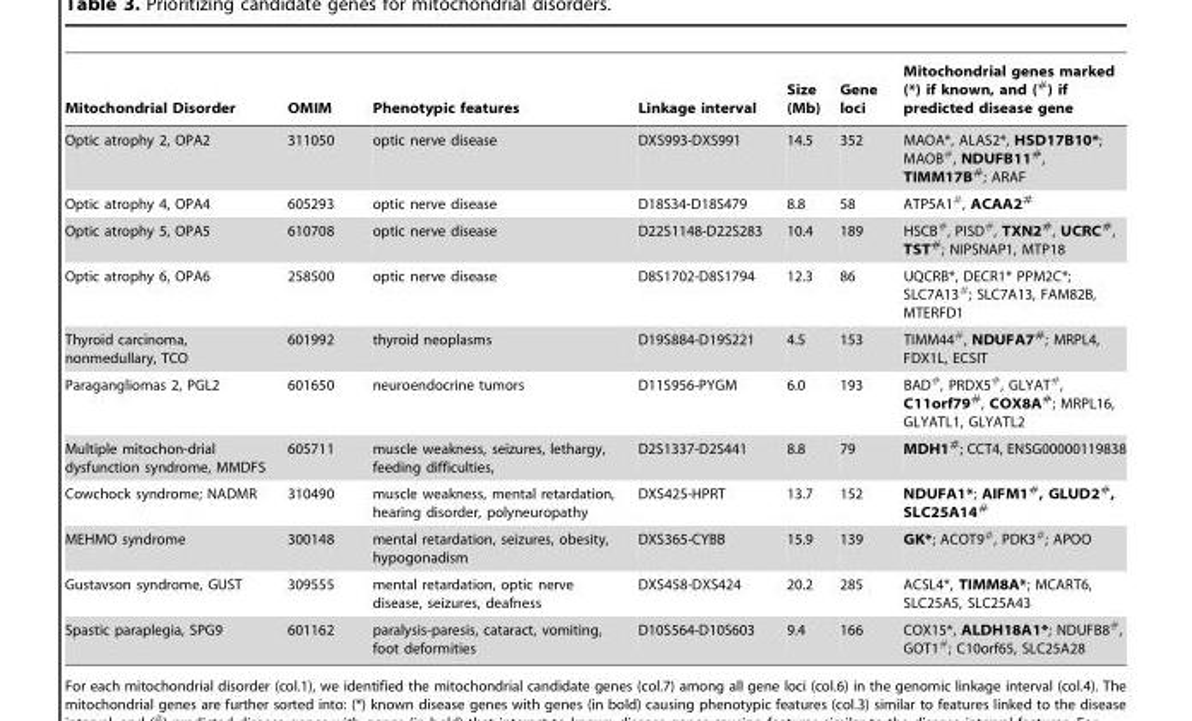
<table><thead><tr><td>Mitochondrial Disorder</td><td>OMIM</td><td>Phenotypic features</td><td>Linkage interval</td><td>Size (Mb)</td><td>Gene loci</td><td>Mitochondrial genes marked (*) if known, and (<sup>#</sup>) if predicted disease gene</td></tr></thead><tbody><tr><td>Optic atrophy 2, OPA2</td><td>311050</td><td>optic nerve disease</td><td>DXS993-DXS991</td><td>14.5</td><td>352</td><td>MAOA*, ALAS2*, HSD17B10*; MAOB<sup>#</sup>, NDUFB11<sup>#</sup>, TIMM17B<sup>#</sup>; ARAF</td></tr><tr><td>Optic atrophy 4, OPA4</td><td>605293</td><td>optic nerve disease</td><td>D18S34-D18S479</td><td>8.8</td><td>58</td><td>ATP5A1<sup>#</sup>, ACAA2<sup>#</sup></td></tr><tr><td>Optic atrophy 5, OPA5</td><td>610708</td><td>optic nerve disease</td><td>D22S1148-D22S283</td><td>10.4</td><td>189</td><td>HSCB<sup>#</sup>, PISD<sup>#</sup>, TXN2<sup>#</sup>, UCRC<sup>#</sup>, TST<sup>#</sup>; NIPSNAP1, MTP18</td></tr><tr><td>Optic atrophy 6, OPA6</td><td>258500</td><td>optic nerve disease</td><td>D8S1702-D8S1794</td><td>12.3</td><td>86</td><td>UQCRB*, DECR1* PPM2C*; SLC7A13<sup>#</sup>; SLC7A13, FAM82B, MTERFD1</td></tr><tr><td>Thyroid carcinoma, nonmedullary, TCO</td><td>601992</td><td>thyroid neoplasms</td><td>D19S884-D19S221</td><td>4.5</td><td>153</td><td>TIMM44<sup>#</sup>, NDUFA7<sup>#</sup>; MRPL4, FDX1L, ECSIT</td></tr><tr><td>Paragangliomas 2, PGL2</td><td>601650</td><td>neuroendocrine tumors</td><td>D11S956-PYGM</td><td>6.0</td><td>193</td><td>BAD<sup>#</sup>, PRDX5<sup>#</sup>, GLYAT<sup>#</sup>, C11orf79<sup>#</sup>, COX8A<sup>#</sup>; MRPL16, GLYATL1, GLYATL2</td></tr><tr><td>Multiple mitochon-drial dysfunction syndrome, MMDFS</td><td>605711</td><td>muscle weakness, seizures, lethargy, feeding difficulties,</td><td>D2S1337-D2S441</td><td>8.8</td><td>79</td><td>MDH1<sup>#</sup>; CCT4, ENSG00000119838</td></tr><tr><td>Cowchock syndrome; NADMR</td><td>310490</td><td>muscle weakness, mental retardation, hearing disorder, polyneuropathy</td><td>DXS425-HPRT</td><td>13.7</td><td>152</td><td>NDUFA1*; AIFM1<sup>#</sup>, GLUD2<sup>#</sup>, SLC25A14<sup>#</sup></td></tr><tr><td>MEHMO syndrome</td><td>300148</td><td>mental retardation, seizures, obesity, hypogonadism</td><td>DXS365-CYBB</td><td>15.9</td><td>139</td><td>GK*; ACOT9<sup>#</sup>, PDK3<sup>#</sup>; APOO</td></tr><tr><td>Gustavson syndrome, GUST</td><td>309555</td><td>mental retardation, optic nerve disease, seizures, deafness</td><td>DXS458-DXS424</td><td>20.2</td><td>285</td><td>ACSL4*, TIMM8A*; MCART6, SLC25A5, SLC25A43</td></tr><tr><td>Spastic paraplegia, SPG9</td><td>601162</td><td>paralysis-paresis, cataract, vomiting, foot deformities</td><td>D10S564-D10S603</td><td>9.4</td><td>166</td><td>COX15*, ALDH18A1*; NDUFB8<sup>#</sup>, GOT1<sup>#</sup>; C10orf65, SLC25A28</td></tr></tbody></table>